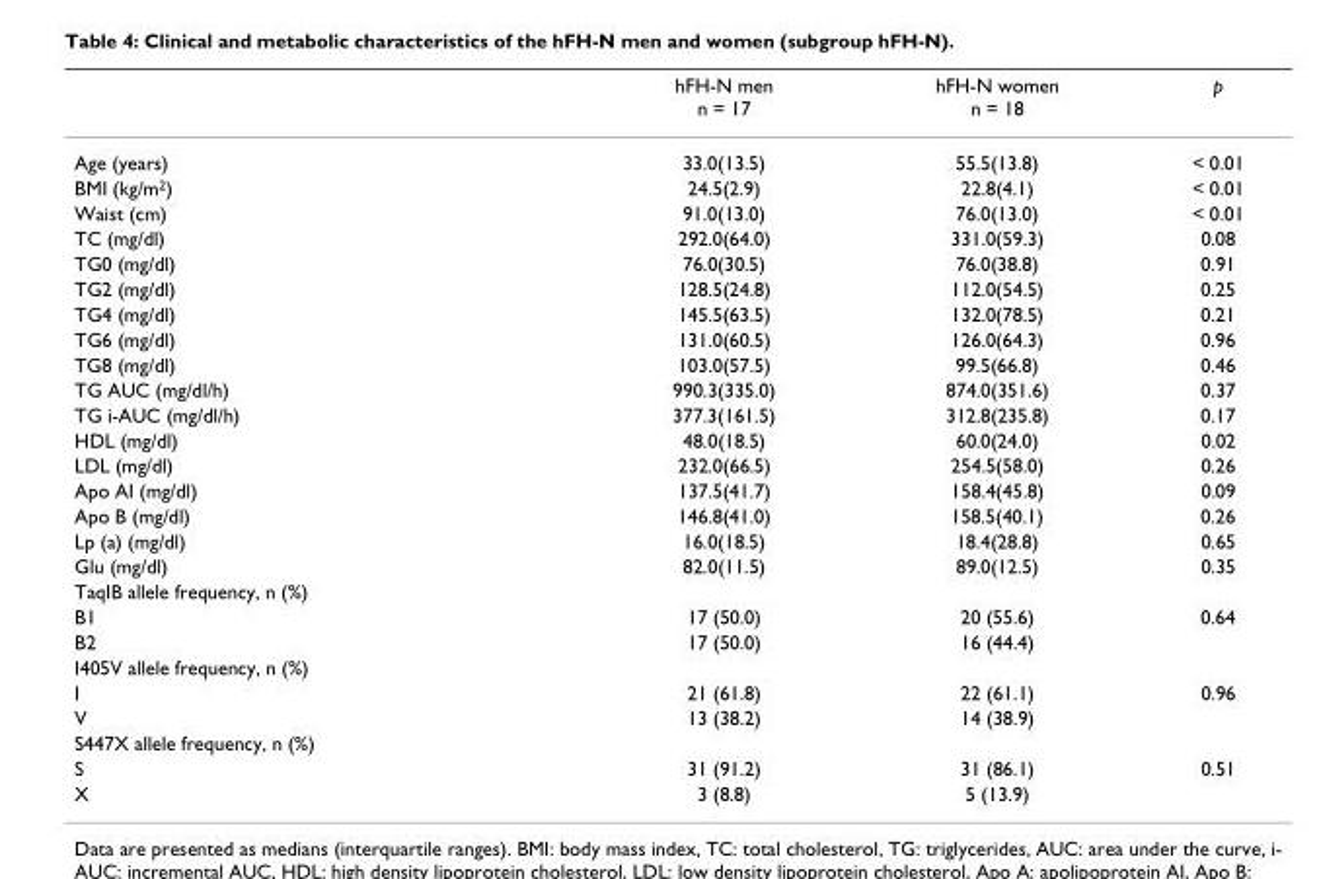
<table><thead><tr><td></td><td>hFH-N men n = 17</td><td>hFH-N women n = 18</td><td>p</td></tr></thead><tbody><tr><td>Age (years)</td><td>33.0(13.5)</td><td>55.5(13.8)</td><td>&lt; 0.01</td></tr><tr><td>BMI (kg/m<sup>2</sup>)</td><td>24.5(2.9)</td><td>22.8(4.1)</td><td>&lt; 0.01</td></tr><tr><td>Waist (cm)</td><td>91.0(13.0)</td><td>76.0(13.0)</td><td>&lt; 0.01</td></tr><tr><td>TC (mg/dl)</td><td>292.0(64.0)</td><td>331.0(59.3)</td><td>0.08</td></tr><tr><td>TG0 (mg/dl)</td><td>76.0(30.5)</td><td>76.0(38.8)</td><td>0.91</td></tr><tr><td>TG2 (mg/dl)</td><td>128.5(24.8)</td><td>112.0(54.5)</td><td>0.25</td></tr><tr><td>TG4 (mg/dl)</td><td>145.5(63.5)</td><td>132.0(78.5)</td><td>0.21</td></tr><tr><td>TG6 (mg/dl)</td><td>131.0(60.5)</td><td>126.0(64.3)</td><td>0.96</td></tr><tr><td>TG8 (mg/dl)</td><td>103.0(57.5)</td><td>99.5(66.8)</td><td>0.46</td></tr><tr><td>TG AUC (mg/dl/h)</td><td>990.3(335.0)</td><td>874.0(351.6)</td><td>0.37</td></tr><tr><td>TG i-AUC (mg/dl/h)</td><td>377.3(161.5)</td><td>312.8(235.8)</td><td>0.17</td></tr><tr><td>HDL (mg/dl)</td><td>48.0(18.5)</td><td>60.0(24.0)</td><td>0.02</td></tr><tr><td>LDL (mg/dl)</td><td>232.0(66.5)</td><td>254.5(58.0)</td><td>0.26</td></tr><tr><td>Apo AI (mg/dl)</td><td>137.5(41.7)</td><td>158.4(45.8)</td><td>0.09</td></tr><tr><td>Apo B (mg/dl)</td><td>146.8(41.0)</td><td>158.5(40.1)</td><td>0.26</td></tr><tr><td>Lp (a) (mg/dl)</td><td>16.0(18.5)</td><td>18.4(28.8)</td><td>0.65</td></tr><tr><td>Glu (mg/dl)</td><td>82.0(11.5)</td><td>89.0(12.5)</td><td>0.35</td></tr><tr><td colspan="4">TaqIB allele frequency, n (%)</td></tr><tr><td>B1</td><td>17 (50.0)</td><td>20 (55.6)</td><td>0.64</td></tr><tr><td>B2</td><td>17 (50.0)</td><td>16 (44.4)</td><td></td></tr><tr><td colspan="4">I405V allele frequency, n (%)</td></tr><tr><td>I</td><td>21 (61.8)</td><td>22 (61.1)</td><td>0.96</td></tr><tr><td>V</td><td>13 (38.2)</td><td>14 (38.9)</td><td></td></tr><tr><td colspan="4">S447X allele frequency, n (%)</td></tr><tr><td>S</td><td>31 (91.2)</td><td>31 (86.1)</td><td>0.51</td></tr><tr><td>X</td><td>3 (8.8)</td><td>5 (13.9)</td><td></td></tr></tbody></table>